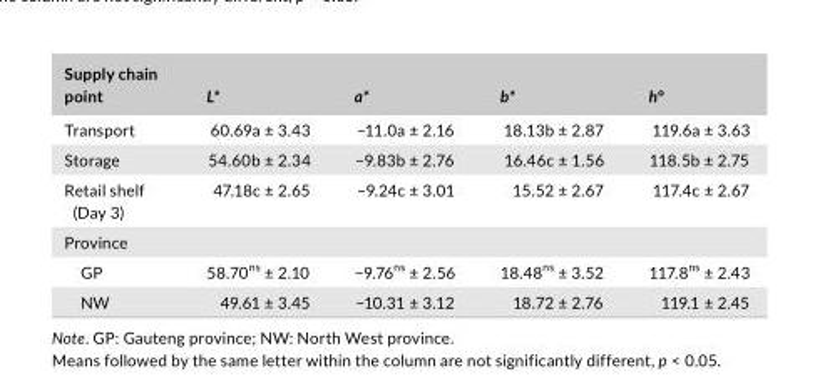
<table><thead><tr><td>Supply chain point</td><td>L*</td><td>a*</td><td>b*</td><td>h°</td></tr></thead><tbody><tr><td>Transport</td><td>60.69a ± 3.43</td><td>−11.0a ± 2.16</td><td>18.13b ± 2.87</td><td>119.6a ± 3.63</td></tr><tr><td>Storage</td><td>54.60b ± 2.34</td><td>−9.83b ± 2.76</td><td>16.46c ± 1.56</td><td>118.5b ± 2.75</td></tr><tr><td>Retail shelf (Day 3)</td><td>47.18c ± 2.65</td><td>−9.24c ± 3.01</td><td>15.52 ± 2.67</td><td>117.4c ± 2.67</td></tr><tr><td colspan="5">Province</td></tr><tr><td>GP</td><td>58.70<sup>ns</sup> ± 2.10</td><td>−9.76<sup>ns</sup> ± 2.56</td><td>18.48<sup>ns</sup> ± 3.52</td><td>117.8<sup>ns</sup> ± 2.43</td></tr><tr><td>NW</td><td>49.61 ± 3.45</td><td>−10.31 ± 3.12</td><td>18.72 ± 2.76</td><td>119.1 ± 2.45</td></tr></tbody></table>